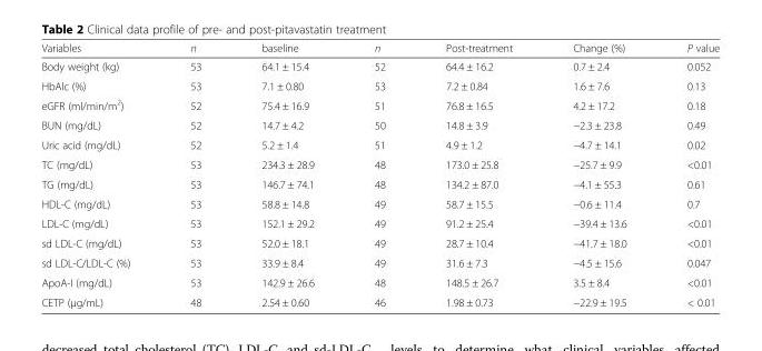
<table><thead><tr><td>Variables</td><td>n</td><td>baseline</td><td>n</td><td>Post-treatment</td><td>Change (%)</td><td>P value</td></tr></thead><tbody><tr><td>Body weight (kg)</td><td>53</td><td>64.1 ± 15.4</td><td>52</td><td>64.4 ± 16.2</td><td>0.7 ± 2.4</td><td>0.052</td></tr><tr><td>HbAlc (%)</td><td>53</td><td>7.1 ± 0.80</td><td>53</td><td>7.2 ± 0.84</td><td>1.6 ± 7.6</td><td>0.13</td></tr><tr><td>eGFR (ml/min/m<sup>2</sup>)</td><td>52</td><td>75.4 ± 16.9</td><td>51</td><td>76.8 ± 16.5</td><td>4.2 ± 17.2</td><td>0.18</td></tr><tr><td>BUN (mg/dL)</td><td>52</td><td>14.7 ± 4.2</td><td>50</td><td>14.8 ± 3.9</td><td>−2.3 ± 23.8</td><td>0.49</td></tr><tr><td>Uric acid (mg/dL)</td><td>52</td><td>5.2 ± 1.4</td><td>51</td><td>4.9 ± 1.2</td><td>−4.7 ± 14.1</td><td>0.02</td></tr><tr><td>TC (mg/dL)</td><td>53</td><td>234.3 ± 28.9</td><td>48</td><td>173.0 ± 25.8</td><td>−25.7 ± 9.9</td><td>&lt;0.01</td></tr><tr><td>TG (mg/dL)</td><td>53</td><td>146.7 ± 74.1</td><td>48</td><td>134.2 ± 87.0</td><td>−4.1 ± 55.3</td><td>0.61</td></tr><tr><td>HDL-C (mg/dL)</td><td>53</td><td>58.8 ± 14.8</td><td>49</td><td>58.7 ± 15.5</td><td>−0.6 ± 11.4</td><td>0.7</td></tr><tr><td>LDL-C (mg/dL)</td><td>53</td><td>152.1 ± 29.2</td><td>49</td><td>91.2 ± 25.4</td><td>−39.4 ± 13.6</td><td>&lt;0.01</td></tr><tr><td>sd LDL-C (mg/dL)</td><td>53</td><td>52.0 ± 18.1</td><td>49</td><td>28.7 ± 10.4</td><td>−41.7 ± 18.0</td><td>&lt;0.01</td></tr><tr><td>sd LDL-C/LDL-C (%)</td><td>53</td><td>33.9 ± 8.4</td><td>49</td><td>31.6 ± 7.3</td><td>−4.5 ± 15.6</td><td>0.047</td></tr><tr><td>ApoA-I (mg/dL)</td><td>53</td><td>142.9 ± 26.6</td><td>48</td><td>148.5 ± 26.7</td><td>3.5 ± 8.4</td><td>&lt;0.01</td></tr><tr><td>CETP (μg/mL)</td><td>48</td><td>2.54 ± 0.60</td><td>46</td><td>1.98 ± 0.73</td><td>−22.9 ± 19.5</td><td>&lt; 0.01</td></tr></tbody></table>